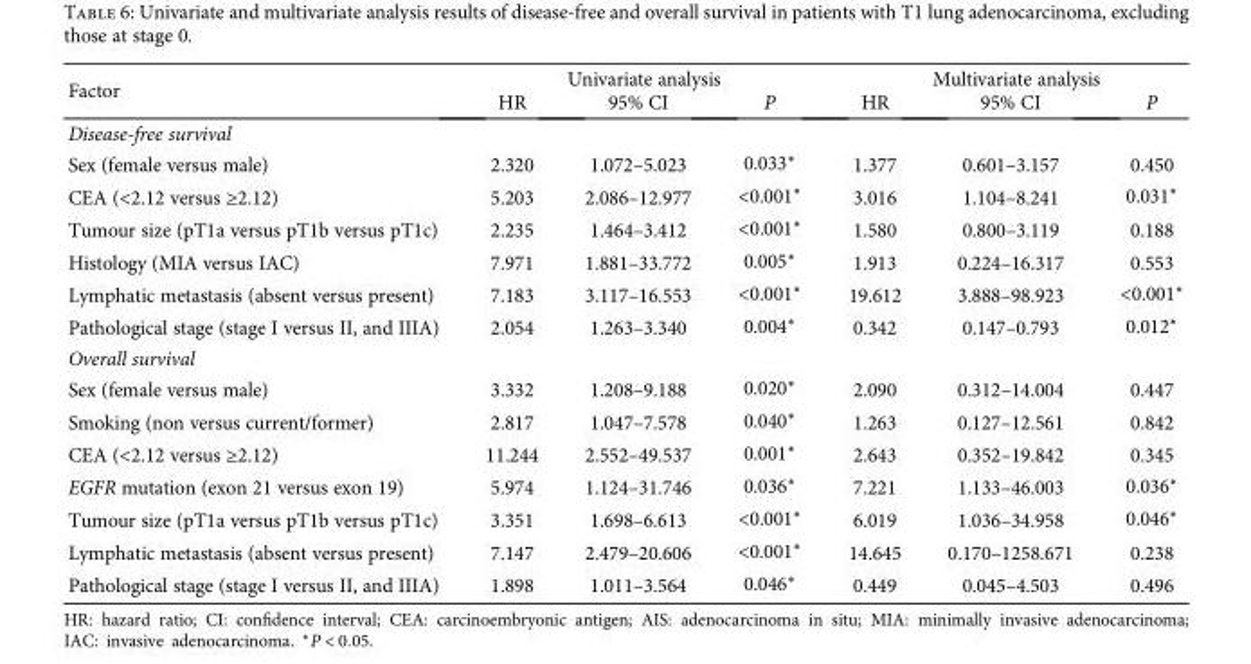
<table><thead><tr><td rowspan="2">Factor</td><td colspan="3">Univariate analysis</td><td colspan="3">Multivariate analysis</td></tr><tr><td>HR</td><td>95% CI</td><td>P</td><td>HR</td><td>95% CI</td><td>P</td></tr></thead><tbody><tr><td colspan="7">Disease-free survival</td></tr><tr><td>Sex (female versus male)</td><td>2.320</td><td>1.072–5.023</td><td>0.033∗</td><td>1.377</td><td>0.601–3.157</td><td>0.450</td></tr><tr><td>CEA (&lt;2.12 versus ≥2.12)</td><td>5.203</td><td>2.086–12.977</td><td>&lt;0.001∗</td><td>3.016</td><td>1.104–8.241</td><td>0.031∗</td></tr><tr><td>Tumour size (pT1a versus pT1b versus pT1c)</td><td>2.235</td><td>1.464–3.412</td><td>&lt;0.001∗</td><td>1.580</td><td>0.800–3.119</td><td>0.188</td></tr><tr><td>Histology (MIA versus IAC)</td><td>7.971</td><td>1.881–33.772</td><td>0.005∗</td><td>1.913</td><td>0.224–16.317</td><td>0.553</td></tr><tr><td>Lymphatic metastasis (absent versus present)</td><td>7.183</td><td>3.117–16.553</td><td>&lt;0.001∗</td><td>19.612</td><td>3.888–98.923</td><td>&lt;0.001∗</td></tr><tr><td>Pathological stage (stage I versus II, and IIIA)</td><td>2.054</td><td>1.263–3.340</td><td>0.004∗</td><td>0.342</td><td>0.147–0.793</td><td>0.012∗</td></tr><tr><td colspan="7">Overall survival</td></tr><tr><td>Sex (female versus male)</td><td>3.332</td><td>1.208–9.188</td><td>0.020∗</td><td>2.090</td><td>0.312–14.004</td><td>0.447</td></tr><tr><td>Smoking (non versus current/former)</td><td>2.817</td><td>1.047–7.578</td><td>0.040∗</td><td>1.263</td><td>0.127–12.561</td><td>0.842</td></tr><tr><td>CEA (&lt;2.12 versus ≥2.12)</td><td>11.244</td><td>2.552–49.537</td><td>0.001∗</td><td>2.643</td><td>0.352–19.842</td><td>0.345</td></tr><tr><td>EGFR mutation (exon 21 versus exon 19)</td><td>5.974</td><td>1.124–31.746</td><td>0.036∗</td><td>7.221</td><td>1.133–46.003</td><td>0.036∗</td></tr><tr><td>Tumour size (pT1a versus pT1b versus pT1c)</td><td>3.351</td><td>1.698–6.613</td><td>&lt;0.001∗</td><td>6.019</td><td>1.036–34.958</td><td>0.046∗</td></tr><tr><td>Lymphatic metastasis (absent versus present)</td><td>7.147</td><td>2.479–20.606</td><td>&lt;0.001∗</td><td>14.645</td><td>0.170–1258.671</td><td>0.238</td></tr><tr><td>Pathological stage (stage I versus II, and IIIA)</td><td>1.898</td><td>1.011–3.564</td><td>0.046∗</td><td>0.449</td><td>0.045–4.503</td><td>0.496</td></tr></tbody></table>